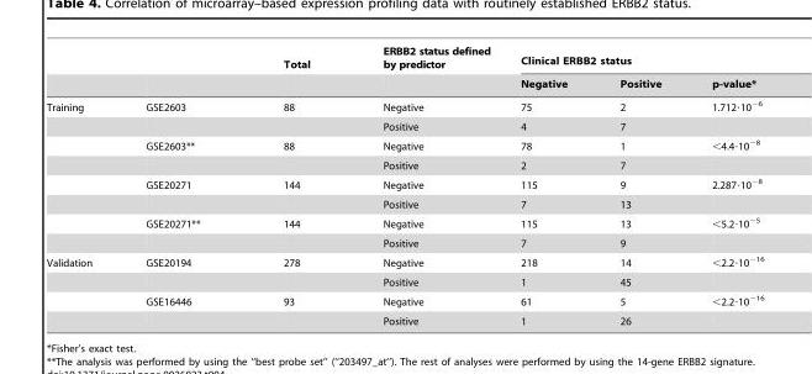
<table><thead><tr><td rowspan="2"></td><td rowspan="2"></td><td rowspan="2">Total</td><td rowspan="2">ERBB2 status defined by predictor</td><td colspan="3">Clinical ERBB2 status</td></tr><tr><td>Negative</td><td>Positive</td><td>p-value*</td></tr></thead><tbody><tr><td rowspan="8">Training</td><td>GSE2603</td><td>88</td><td>Negative</td><td>75</td><td>2</td><td>1.712·10<sup>−6</sup></td></tr><tr><td></td><td></td><td>Positive</td><td>4</td><td>7</td><td></td></tr><tr><td>GSE2603**</td><td>88</td><td>Negative</td><td>78</td><td>1</td><td>&lt;4.4·10<sup>−8</sup></td></tr><tr><td></td><td></td><td>Positive</td><td>2</td><td>7</td><td></td></tr><tr><td>GSE20271</td><td>144</td><td>Negative</td><td>115</td><td>9</td><td>2.287·10<sup>−8</sup></td></tr><tr><td></td><td></td><td>Positive</td><td>7</td><td>13</td><td></td></tr><tr><td>GSE20271**</td><td>144</td><td>Negative</td><td>115</td><td>13</td><td>&lt;5.2·10<sup>−5</sup></td></tr><tr><td></td><td></td><td>Positive</td><td>7</td><td>9</td><td></td></tr><tr><td rowspan="4">Validation</td><td>GSE20194</td><td>278</td><td>Negative</td><td>218</td><td>14</td><td>&lt;2.2·10<sup>−16</sup></td></tr><tr><td></td><td></td><td>Positive</td><td>1</td><td>45</td><td></td></tr><tr><td>GSE16446</td><td>93</td><td>Negative</td><td>61</td><td>5</td><td>&lt;2.2·10<sup>−16</sup></td></tr><tr><td></td><td></td><td>Positive</td><td>1</td><td>26</td><td></td></tr></tbody></table>